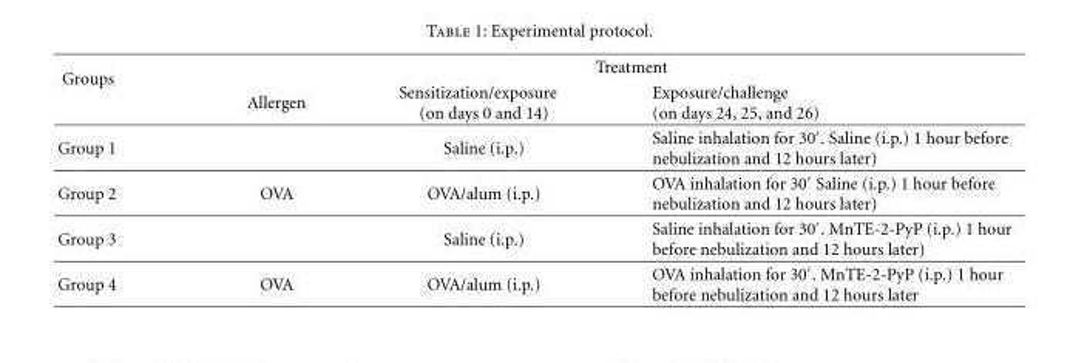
<table><tbody><tr><td rowspan="2">Groups</td><td colspan="3">Treatment</td></tr><tr><td>Allergen</td><td>Sensitization/exposure (on days 0 and 14)</td><td>Exposure/challenge (on days 24, 25, and 26)</td></tr><tr><td>Group 1</td><td></td><td>Saline (i.p.)</td><td>Saline inhalation for 30′. Saline (i.p.) 1 hour before nebulization and 12 hours later)</td></tr><tr><td>Group 2</td><td>OVA</td><td>OVA/alum (i.p.)</td><td>OVA inhalation for 30′ Saline (i.p.) 1 hour before nebulization and 12 hours later)</td></tr><tr><td>Group 3</td><td></td><td>Saline (i.p.)</td><td>Saline inhalation for 30′. MnTE-2-PyP (i.p.) 1 hour before nebulization and 12 hours later)</td></tr><tr><td>Group 4</td><td>OVA</td><td>OVA/alum (i.p.)</td><td>OVA inhalation for 30′. MnTE-2-PyP (i.p.) 1 hour before nebulization and 12 hours later</td></tr></tbody></table>